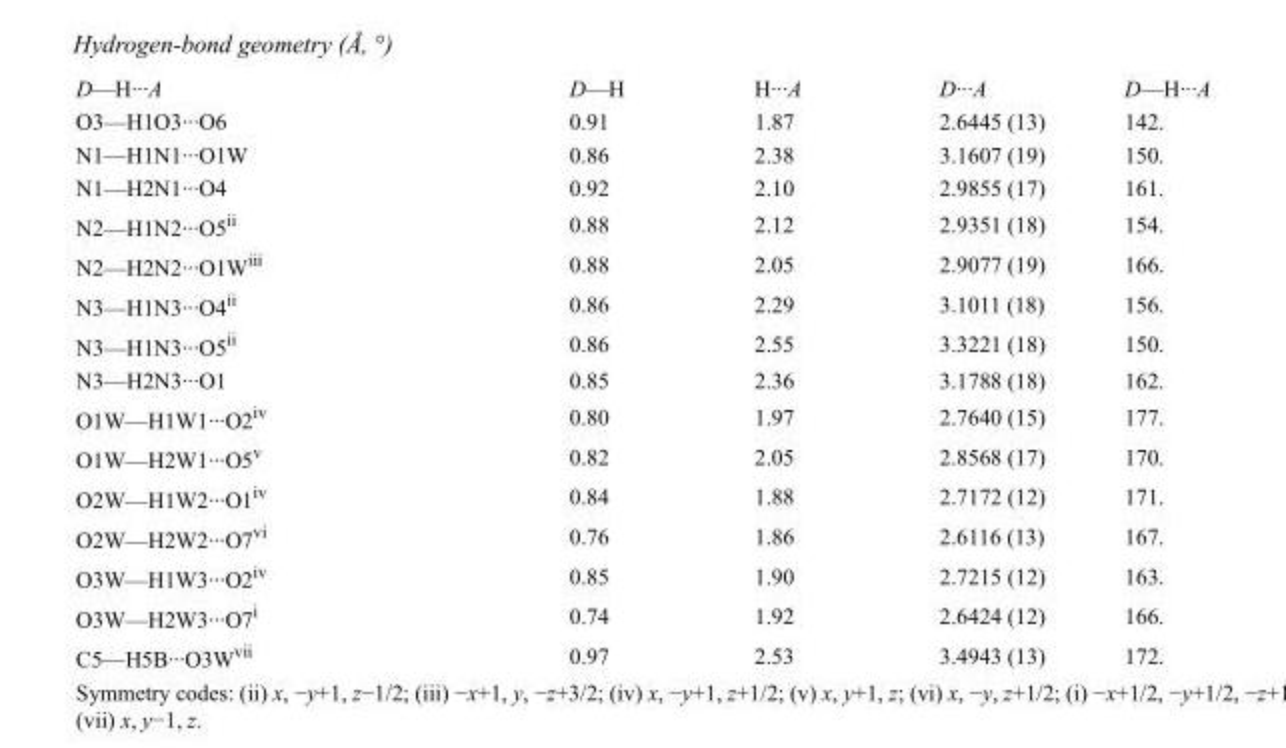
<table><tbody><tr><td>D—H···A</td><td>D—H</td><td>H···A</td><td>D···A</td><td>D—H···A</td></tr><tr><td>O3—H1O3···O6</td><td>0.91</td><td>1.87</td><td>2.6445 (13)</td><td>142.</td></tr><tr><td>N1—H1N1···O1W</td><td>0.86</td><td>2.38</td><td>3.1607 (19)</td><td>150.</td></tr><tr><td>N1—H2N1···O4</td><td>0.92</td><td>2.10</td><td>2.9855 (17)</td><td>161.</td></tr><tr><td>N2—H1N2···O5<sup>ii</sup></td><td>0.88</td><td>2.12</td><td>2.9351 (18)</td><td>154.</td></tr><tr><td>N2—H2N2···O1W<sup>iii</sup></td><td>0.88</td><td>2.05</td><td>2.9077 (19)</td><td>166.</td></tr><tr><td>N3—H1N3···O4<sup>ii</sup></td><td>0.86</td><td>2.29</td><td>3.1011 (18)</td><td>156.</td></tr><tr><td>N3—H1N3···O5<sup>ii</sup></td><td>0.86</td><td>2.55</td><td>3.3221 (18)</td><td>150.</td></tr><tr><td>N3—H2N3···O1</td><td>0.85</td><td>2.36</td><td>3.1788 (18)</td><td>162.</td></tr><tr><td>O1W—H1W1···O2<sup>iv</sup></td><td>0.80</td><td>1.97</td><td>2.7640 (15)</td><td>177.</td></tr><tr><td>O1W—H2W1···O5<sup>v</sup></td><td>0.82</td><td>2.05</td><td>2.8568 (17)</td><td>170.</td></tr><tr><td>O2W—H1W2···O1<sup>iv</sup></td><td>0.84</td><td>1.88</td><td>2.7172 (12)</td><td>171.</td></tr><tr><td>O2W—H2W2···O7<sup>vi</sup></td><td>0.76</td><td>1.86</td><td>2.6116 (13)</td><td>167.</td></tr><tr><td>O3W—H1W3···O2<sup>iv</sup></td><td>0.85</td><td>1.90</td><td>2.7215 (12)</td><td>163.</td></tr><tr><td>O3W—H2W3···O7<sup>i</sup></td><td>0.74</td><td>1.92</td><td>2.6424 (12)</td><td>166.</td></tr><tr><td>C5—H5B···O3W<sup>vii</sup></td><td>0.97</td><td>2.53</td><td>3.4943 (13)</td><td>172.</td></tr></tbody></table>